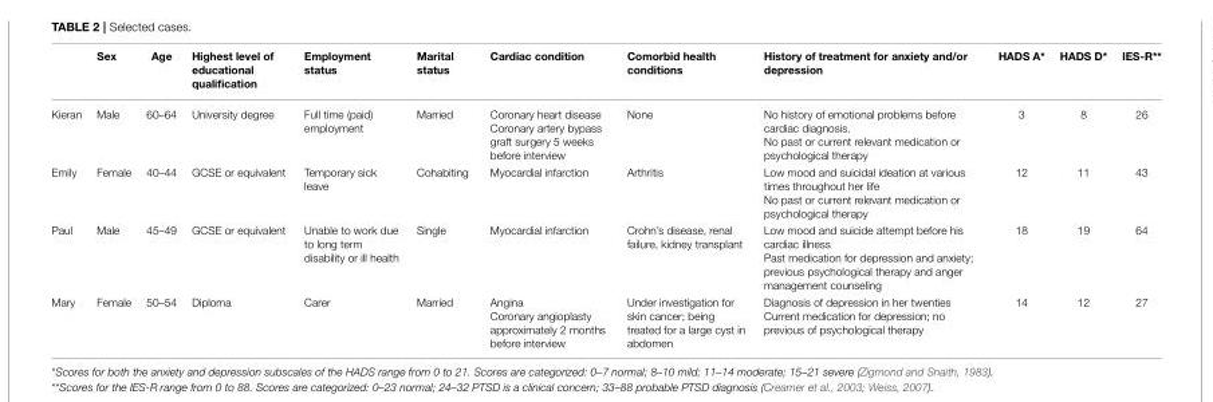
<table><thead><tr><td></td><td>Sex</td><td>Age</td><td>Highest level of educational qualification</td><td>Employment status</td><td>Marital status</td><td>Cardiac condition</td><td>Comorbid health conditions</td><td>History of treatment for anxiety and/or depression</td><td>HADS A*</td><td>HADS D*</td><td>IES-R**</td></tr></thead><tbody><tr><td>Kieran</td><td>Male</td><td>60–64</td><td>University degree</td><td>Full time (paid) employment</td><td>Married</td><td>Coronary heart disease Coronary artery bypass graft surgery 5 weeks before interview</td><td>None</td><td>No history of emotional problems before cardiac diagnosis. No past or current relevant medication or psychological therapy</td><td>3</td><td>8</td><td>26</td></tr><tr><td>Emily</td><td>Female</td><td>40–44</td><td>GCSE or equivalent</td><td>Temporary sick leave</td><td>Cohabiting</td><td>Myocardial infarction</td><td>Arthritis</td><td>Low mood and suicidal ideation at various times throughout her life No past or current relevant medication or psychological therapy</td><td>12</td><td>11</td><td>43</td></tr><tr><td>Paul</td><td>Male</td><td>45–49</td><td>GCSE or equivalent</td><td>Unable to work due to long term disability or ill health</td><td>Single</td><td>Myocardial infarction</td><td>Crohn’s disease, renal failure, kidney transplant</td><td>Low mood and suicide attempt before his cardiac illness Past medication for depression and anxiety; previous psychological therapy and anger management counseling</td><td>18</td><td>19</td><td>64</td></tr><tr><td>Mary</td><td>Female</td><td>50–54</td><td>Diploma</td><td>Carer</td><td>Married</td><td>Angina Coronary angioplasty approximately 2 months before interview</td><td>Under investigation for skin cancer; being treated for a large cyst in abdomen</td><td>Diagnosis of depression in her twenties Current medication for depression; no previous of psychological therapy</td><td>14</td><td>12</td><td>27</td></tr></tbody></table>